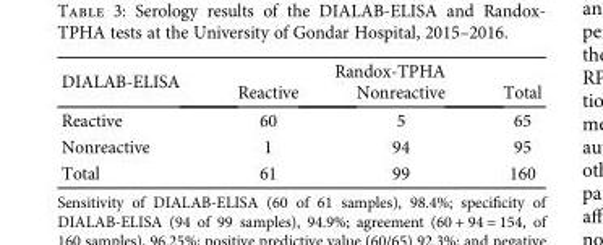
<table><thead><tr><td rowspan="2">DIALAB-ELISA</td><td colspan="3">Randox-TPHA</td></tr><tr><td>Reactive</td><td>Nonreactive</td><td>Total</td></tr></thead><tbody><tr><td>Reactive</td><td>60</td><td>5</td><td>65</td></tr><tr><td>Nonreactive</td><td>1</td><td>94</td><td>95</td></tr><tr><td>Total</td><td>61</td><td>99</td><td>160</td></tr></tbody></table>